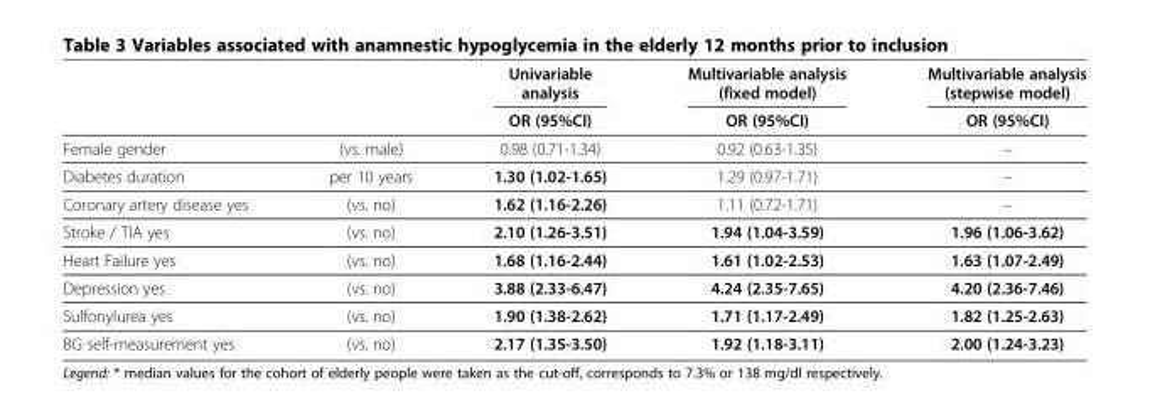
<table><thead><tr><td rowspan="2"></td><td rowspan="2"></td><td rowspan="2">Univariable analysis OR (95%CI)</td><td rowspan="2">Multivariable analysis (fixed model) OR (95%CI)</td><td rowspan="2">Multivariable analysis (stepwise model) OR (95%CI)</td></tr><tr></tr></thead><tbody><tr><td>Female gender</td><td>(vs. male)</td><td>0.98 (0.71-1.34)</td><td>0.92 (0.63-1.35)</td><td>–</td></tr><tr><td>Diabetes duration</td><td>per 10 years</td><td>1.30 (1.02-1.65)</td><td>1.29 (0.97-1.71)</td><td>–</td></tr><tr><td>Coronary artery disease yes</td><td>(vs. no)</td><td>1.62 (1.16-2.26)</td><td>1.11 (0.72-1.71)</td><td>–</td></tr><tr><td>Stroke / TIA yes</td><td>(vs. no)</td><td>2.10 (1.26-3.51)</td><td>1.94 (1.04-3.59)</td><td>1.96 (1.06-3.62)</td></tr><tr><td>Heart Failure yes</td><td>(vs. no)</td><td>1.68 (1.16-2.44)</td><td>1.61 (1.02-2.53)</td><td>1.63 (1.07-2.49)</td></tr><tr><td>Depression yes</td><td>(vs. no)</td><td>3.88 (2.33-6.47)</td><td>4.24 (2.35-7.65)</td><td>4.20 (2.36-7.46)</td></tr><tr><td>Sulfonylurea yes</td><td>(vs. no)</td><td>1.90 (1.38-2.62)</td><td>1.71 (1.17-2.49)</td><td>1.82 (1.25-2.63)</td></tr><tr><td>BG self-measurement yes</td><td>(vs. no)</td><td>2.17 (1.35-3.50)</td><td>1.92 (1.18-3.11)</td><td>2.00 (1.24-3.23)</td></tr></tbody></table>